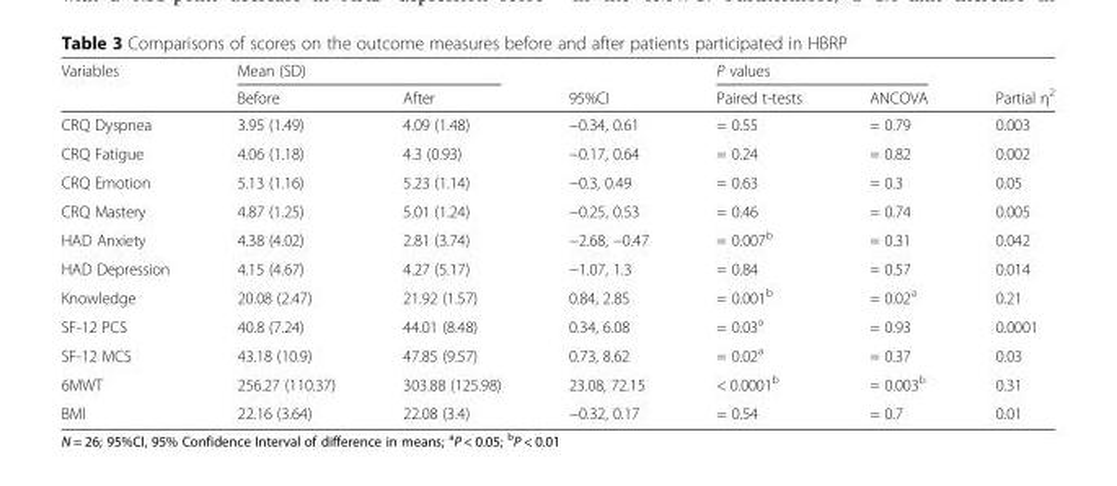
<table><thead><tr><td rowspan="2">Variables</td><td colspan="2">Mean (SD)</td><td rowspan="2">95%CI</td><td colspan="2">P values</td><td rowspan="2">Partial η<sup>2</sup></td></tr><tr><td>Before</td><td>After</td><td>Paired t-tests</td><td>ANCOVA</td></tr></thead><tbody><tr><td>CRQ Dyspnea</td><td>3.95 (1.49)</td><td>4.09 (1.48)</td><td>−0.34, 0.61</td><td>= 0.55</td><td>= 0.79</td><td>0.003</td></tr><tr><td>CRQ Fatigue</td><td>4.06 (1.18)</td><td>4.3 (0.93)</td><td>−0.17, 0.64</td><td>= 0.24</td><td>= 0.82</td><td>0.002</td></tr><tr><td>CRQ Emotion</td><td>5.13 (1.16)</td><td>5.23 (1.14)</td><td>−0.3, 0.49</td><td>= 0.63</td><td>= 0.3</td><td>0.05</td></tr><tr><td>CRQ Mastery</td><td>4.87 (1.25)</td><td>5.01 (1.24)</td><td>−0.25, 0.53</td><td>= 0.46</td><td>= 0.74</td><td>0.005</td></tr><tr><td>HAD Anxiety</td><td>4.38 (4.02)</td><td>2.81 (3.74)</td><td>−2.68, −0.47</td><td>= 0.007<sup>b</sup></td><td>= 0.31</td><td>0.042</td></tr><tr><td>HAD Depression</td><td>4.15 (4.67)</td><td>4.27 (5.17)</td><td>−1.07, 1.3</td><td>= 0.84</td><td>= 0.57</td><td>0.014</td></tr><tr><td>Knowledge</td><td>20.08 (2.47)</td><td>21.92 (1.57)</td><td>0.84, 2.85</td><td>= 0.001<sup>b</sup></td><td>= 0.02<sup>a</sup></td><td>0.21</td></tr><tr><td>SF-12 PCS</td><td>40.8 (7.24)</td><td>44.01 (8.48)</td><td>0.34, 6.08</td><td>= 0.03<sup>a</sup></td><td>= 0.93</td><td>0.0001</td></tr><tr><td>SF-12 MCS</td><td>43.18 (10.9)</td><td>47.85 (9.57)</td><td>0.73, 8.62</td><td>= 0.02<sup>a</sup></td><td>= 0.37</td><td>0.03</td></tr><tr><td>6MWT</td><td>256.27 (110.37)</td><td>303.88 (125.98)</td><td>23.08, 72.15</td><td>&lt; 0.0001<sup>b</sup></td><td>= 0.003<sup>b</sup></td><td>0.31</td></tr><tr><td>BMI</td><td>22.16 (3.64)</td><td>22.08 (3.4)</td><td>−0.32, 0.17</td><td>= 0.54</td><td>= 0.7</td><td>0.01</td></tr></tbody></table>